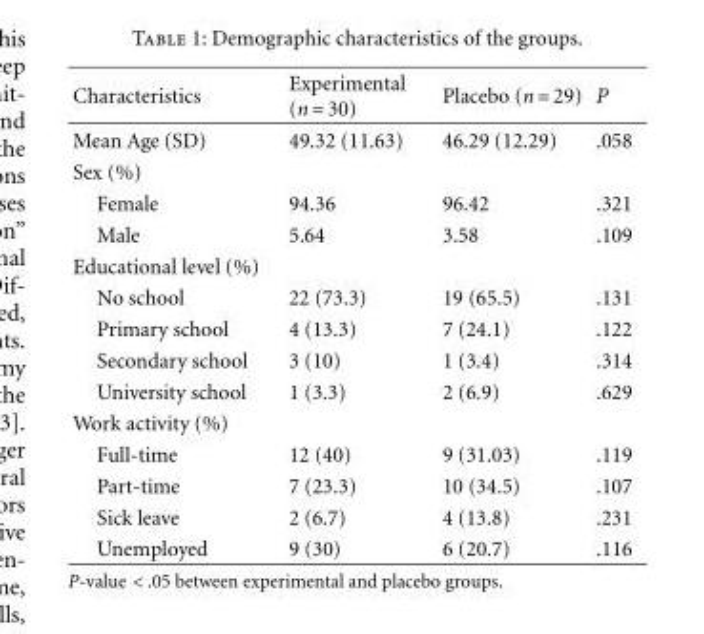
<table><thead><tr><td>Characteristics</td><td>Experimental (n = 30)</td><td>Placebo (n = 29)</td><td>P</td></tr></thead><tbody><tr><td>Mean Age (SD)</td><td>49.32 (11.63)</td><td>46.29 (12.29)</td><td>.058</td></tr><tr><td colspan="4">Sex (%)</td></tr><tr><td>Female</td><td>94.36</td><td>96.42</td><td>.321</td></tr><tr><td>Male</td><td>5.64</td><td>3.58</td><td>.109</td></tr><tr><td colspan="4">Educational level (%)</td></tr><tr><td>No school</td><td>22 (73.3)</td><td>19 (65.5)</td><td>.131</td></tr><tr><td>Primary school</td><td>4 (13.3)</td><td>7 (24.1)</td><td>.122</td></tr><tr><td>Secondary school</td><td>3 (10)</td><td>1 (3.4)</td><td>.314</td></tr><tr><td>University school</td><td>1 (3.3)</td><td>2 (6.9)</td><td>.629</td></tr><tr><td colspan="4">Work activity (%)</td></tr><tr><td>Full-time</td><td>12 (40)</td><td>9 (31.03)</td><td>.119</td></tr><tr><td>Part-time</td><td>7 (23.3)</td><td>10 (34.5)</td><td>.107</td></tr><tr><td>Sick leave</td><td>2 (6.7)</td><td>4 (13.8)</td><td>.231</td></tr><tr><td>Unemployed</td><td>9 (30)</td><td>6 (20.7)</td><td>.116</td></tr></tbody></table>